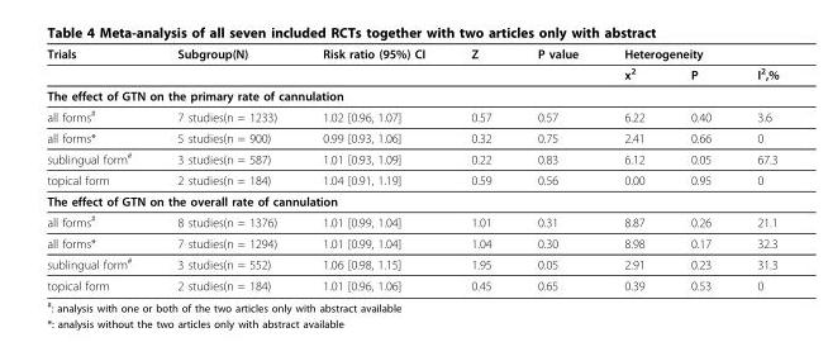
<table><thead><tr><td rowspan="2">Trials</td><td rowspan="2">Subgroup(N)</td><td rowspan="2">Risk ratio (95%) CI</td><td rowspan="2">Z</td><td rowspan="2">P value</td><td colspan="3">Heterogeneity</td></tr><tr><td>x<sup>2</sup></td><td>P</td><td>I<sup>2</sup>,%</td></tr></thead><tbody><tr><td colspan="8">The effect of GTN on the primary rate of cannulation</td></tr><tr><td>all forms<sup>#</sup></td><td>7 studies(n = 1233)</td><td>1.02 [0.96, 1.07]</td><td>0.57</td><td>0.57</td><td>6.22</td><td>0.40</td><td>3.6</td></tr><tr><td>all forms*</td><td>5 studies(n = 900)</td><td>0.99 [0.93, 1.06]</td><td>0.32</td><td>0.75</td><td>2.41</td><td>0.66</td><td>0</td></tr><tr><td>sublingual form<sup>#</sup></td><td>3 studies(n = 587)</td><td>1.01 [0.93, 1.09]</td><td>0.22</td><td>0.83</td><td>6.12</td><td>0.05</td><td>67.3</td></tr><tr><td>topical form</td><td>2 studies(n = 184)</td><td>1.04 [0.91, 1.19]</td><td>0.59</td><td>0.56</td><td>0.00</td><td>0.95</td><td>0</td></tr><tr><td colspan="8">The effect of GTN on the overall rate of cannulation</td></tr><tr><td>all forms<sup>#</sup></td><td>8 studies(n = 1376)</td><td>1.01 [0.99, 1.04]</td><td>1.01</td><td>0.31</td><td>8.87</td><td>0.26</td><td>21.1</td></tr><tr><td>all forms*</td><td>7 studies(n = 1294)</td><td>1.01 [0.99, 1.04]</td><td>1.04</td><td>0.30</td><td>8.98</td><td>0.17</td><td>32.3</td></tr><tr><td>sublingual form<sup>#</sup></td><td>3 studies(n = 552)</td><td>1.06 [0.98, 1.15]</td><td>1.95</td><td>0.05</td><td>2.91</td><td>0.23</td><td>31.3</td></tr><tr><td>topical form</td><td>2 studies(n = 184)</td><td>1.01 [0.96, 1.06]</td><td>0.45</td><td>0.65</td><td>0.39</td><td>0.53</td><td>0</td></tr></tbody></table>